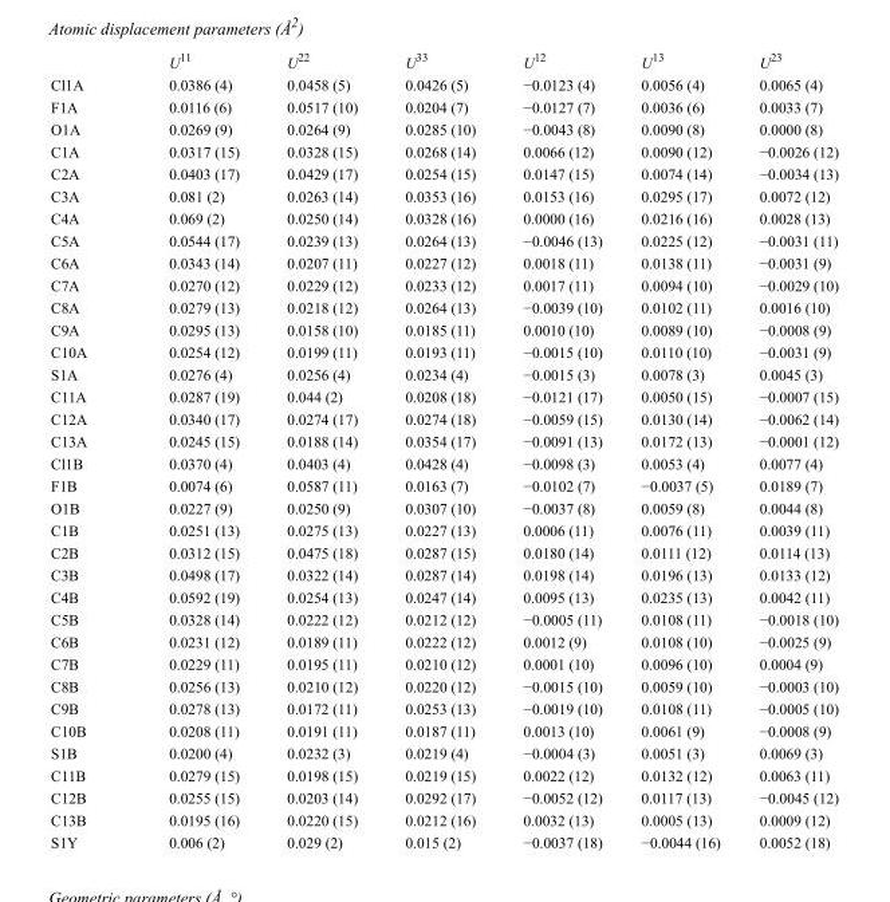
<table><thead><tr><td></td><td>U<sup>11</sup></td><td>U<sup>22</sup></td><td>U<sup>33</sup></td><td>U<sup>12</sup></td><td>U<sup>13</sup></td><td>U<sup>23</sup></td></tr></thead><tbody><tr><td>Cl1A</td><td>0.0386 (4)</td><td>0.0458 (5)</td><td>0.0426 (5)</td><td>−0.0123 (4)</td><td>0.0056 (4)</td><td>0.0065 (4)</td></tr><tr><td>F1A</td><td>0.0116 (6)</td><td>0.0517 (10)</td><td>0.0204 (7)</td><td>−0.0127 (7)</td><td>0.0036 (6)</td><td>0.0033 (7)</td></tr><tr><td>O1A</td><td>0.0269 (9)</td><td>0.0264 (9)</td><td>0.0285 (10)</td><td>−0.0043 (8)</td><td>0.0090 (8)</td><td>0.0000 (8)</td></tr><tr><td>C1A</td><td>0.0317 (15)</td><td>0.0328 (15)</td><td>0.0268 (14)</td><td>0.0066 (12)</td><td>0.0090 (12)</td><td>−0.0026 (12)</td></tr><tr><td>C2A</td><td>0.0403 (17)</td><td>0.0429 (17)</td><td>0.0254 (15)</td><td>0.0147 (15)</td><td>0.0074 (14)</td><td>−0.0034 (13)</td></tr><tr><td>C3A</td><td>0.081 (2)</td><td>0.0263 (14)</td><td>0.0353 (16)</td><td>0.0153 (16)</td><td>0.0295 (17)</td><td>0.0072 (12)</td></tr><tr><td>C4A</td><td>0.069 (2)</td><td>0.0250 (14)</td><td>0.0328 (16)</td><td>0.0000 (16)</td><td>0.0216 (16)</td><td>0.0028 (13)</td></tr><tr><td>C5A</td><td>0.0544 (17)</td><td>0.0239 (13)</td><td>0.0264 (13)</td><td>−0.0046 (13)</td><td>0.0225 (12)</td><td>−0.0031 (11)</td></tr><tr><td>C6A</td><td>0.0343 (14)</td><td>0.0207 (11)</td><td>0.0227 (12)</td><td>0.0018 (11)</td><td>0.0138 (11)</td><td>−0.0031 (9)</td></tr><tr><td>C7A</td><td>0.0270 (12)</td><td>0.0229 (12)</td><td>0.0233 (12)</td><td>0.0017 (11)</td><td>0.0094 (10)</td><td>−0.0029 (10)</td></tr><tr><td>C8A</td><td>0.0279 (13)</td><td>0.0218 (12)</td><td>0.0264 (13)</td><td>−0.0039 (10)</td><td>0.0102 (11)</td><td>0.0016 (10)</td></tr><tr><td>C9A</td><td>0.0295 (13)</td><td>0.0158 (10)</td><td>0.0185 (11)</td><td>0.0010 (10)</td><td>0.0089 (10)</td><td>−0.0008 (9)</td></tr><tr><td>C10A</td><td>0.0254 (12)</td><td>0.0199 (11)</td><td>0.0193 (11)</td><td>−0.0015 (10)</td><td>0.0110 (10)</td><td>−0.0031 (9)</td></tr><tr><td>S1A</td><td>0.0276 (4)</td><td>0.0256 (4)</td><td>0.0234 (4)</td><td>−0.0015 (3)</td><td>0.0078 (3)</td><td>0.0045 (3)</td></tr><tr><td>C11A</td><td>0.0287 (19)</td><td>0.044 (2)</td><td>0.0208 (18)</td><td>−0.0121 (17)</td><td>0.0050 (15)</td><td>−0.0007 (15)</td></tr><tr><td>C12A</td><td>0.0340 (17)</td><td>0.0274 (17)</td><td>0.0274 (18)</td><td>−0.0059 (15)</td><td>0.0130 (14)</td><td>−0.0062 (14)</td></tr><tr><td>C13A</td><td>0.0245 (15)</td><td>0.0188 (14)</td><td>0.0354 (17)</td><td>−0.0091 (13)</td><td>0.0172 (13)</td><td>−0.0001 (12)</td></tr><tr><td>Cl1B</td><td>0.0370 (4)</td><td>0.0403 (4)</td><td>0.0428 (4)</td><td>−0.0098 (3)</td><td>0.0053 (4)</td><td>0.0077 (4)</td></tr><tr><td>F1B</td><td>0.0074 (6)</td><td>0.0587 (11)</td><td>0.0163 (7)</td><td>−0.0102 (7)</td><td>−0.0037 (5)</td><td>0.0189 (7)</td></tr><tr><td>O1B</td><td>0.0227 (9)</td><td>0.0250 (9)</td><td>0.0307 (10)</td><td>−0.0037 (8)</td><td>0.0059 (8)</td><td>0.0044 (8)</td></tr><tr><td>C1B</td><td>0.0251 (13)</td><td>0.0275 (13)</td><td>0.0227 (13)</td><td>0.0006 (11)</td><td>0.0076 (11)</td><td>0.0039 (11)</td></tr><tr><td>C2B</td><td>0.0312 (15)</td><td>0.0475 (18)</td><td>0.0287 (15)</td><td>0.0180 (14)</td><td>0.0111 (12)</td><td>0.0114 (13)</td></tr><tr><td>C3B</td><td>0.0498 (17)</td><td>0.0322 (14)</td><td>0.0287 (14)</td><td>0.0198 (14)</td><td>0.0196 (13)</td><td>0.0133 (12)</td></tr><tr><td>C4B</td><td>0.0592 (19)</td><td>0.0254 (13)</td><td>0.0247 (14)</td><td>0.0095 (13)</td><td>0.0235 (13)</td><td>0.0042 (11)</td></tr><tr><td>C5B</td><td>0.0328 (14)</td><td>0.0222 (12)</td><td>0.0212 (12)</td><td>−0.0005 (11)</td><td>0.0108 (11)</td><td>−0.0018 (10)</td></tr><tr><td>C6B</td><td>0.0231 (12)</td><td>0.0189 (11)</td><td>0.0222 (12)</td><td>0.0012 (9)</td><td>0.0108 (10)</td><td>−0.0025 (9)</td></tr><tr><td>C7B</td><td>0.0229 (11)</td><td>0.0195 (11)</td><td>0.0210 (12)</td><td>0.0001 (10)</td><td>0.0096 (10)</td><td>0.0004 (9)</td></tr><tr><td>C8B</td><td>0.0256 (13)</td><td>0.0210 (12)</td><td>0.0220 (12)</td><td>−0.0015 (10)</td><td>0.0059 (10)</td><td>−0.0003 (10)</td></tr><tr><td>C9B</td><td>0.0278 (13)</td><td>0.0172 (11)</td><td>0.0253 (13)</td><td>−0.0019 (10)</td><td>0.0108 (11)</td><td>−0.0005 (10)</td></tr><tr><td>C10B</td><td>0.0208 (11)</td><td>0.0191 (11)</td><td>0.0187 (11)</td><td>0.0013 (10)</td><td>0.0061 (9)</td><td>−0.0008 (9)</td></tr><tr><td>S1B</td><td>0.0200 (4)</td><td>0.0232 (3)</td><td>0.0219 (4)</td><td>−0.0004 (3)</td><td>0.0051 (3)</td><td>0.0069 (3)</td></tr><tr><td>C11B</td><td>0.0279 (15)</td><td>0.0198 (15)</td><td>0.0219 (15)</td><td>0.0022 (12)</td><td>0.0132 (12)</td><td>0.0063 (11)</td></tr><tr><td>C12B</td><td>0.0255 (15)</td><td>0.0203 (14)</td><td>0.0292 (17)</td><td>−0.0052 (12)</td><td>0.0117 (13)</td><td>−0.0045 (12)</td></tr><tr><td>C13B</td><td>0.0195 (16)</td><td>0.0220 (15)</td><td>0.0212 (16)</td><td>0.0032 (13)</td><td>0.0005 (13)</td><td>0.0009 (12)</td></tr><tr><td>S1Y</td><td>0.006 (2)</td><td>0.029 (2)</td><td>0.015 (2)</td><td>−0.0037 (18)</td><td>−0.0044 (16)</td><td>0.0052 (18)</td></tr></tbody></table>